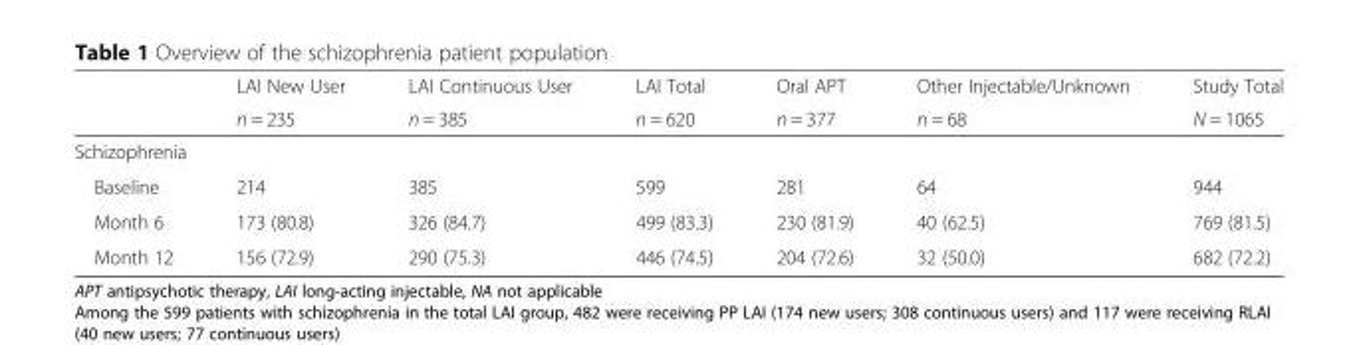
<table><thead><tr><td rowspan="2"></td><td rowspan="2">LAI New User n = 235</td><td rowspan="2">LAI Continuous User n = 385</td><td rowspan="2">LAI Total n = 620</td><td rowspan="2">Oral APT n = 377</td><td rowspan="2">Other Injectable/Unknown n = 68</td><td rowspan="2">Study Total N = 1065</td></tr><tr></tr></thead><tbody><tr><td colspan="7">Schizophrenia</td></tr><tr><td>Baseline</td><td>214</td><td>385</td><td>599</td><td>281</td><td>64</td><td>944</td></tr><tr><td>Month 6</td><td>173 (80.8)</td><td>326 (84.7)</td><td>499 (83.3)</td><td>230 (81.9)</td><td>40 (62.5)</td><td>769 (81.5)</td></tr><tr><td>Month 12</td><td>156 (72.9)</td><td>290 (75.3)</td><td>446 (74.5)</td><td>204 (72.6)</td><td>32 (50.0)</td><td>682 (72.2)</td></tr></tbody></table>